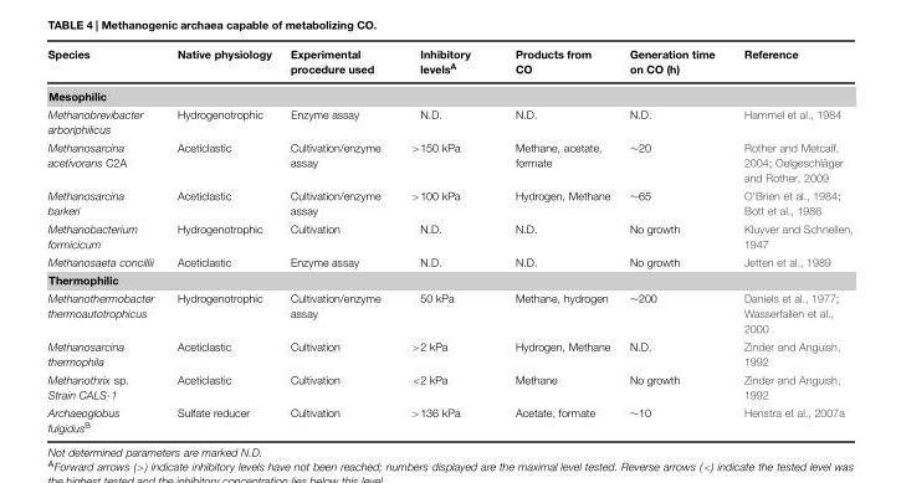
<table><thead><tr><td>Species</td><td>Native physiology</td><td>Experimental procedure used</td><td>Inhibitory levels<sup>A</sup></td><td>Products from CO</td><td>Generation time on CO (h)</td><td>Reference</td></tr></thead><tbody><tr><td colspan="7">Mesophilic</td></tr><tr><td>Methanobrevibacter arboriphilicus</td><td>Hydrogenotrophic</td><td>Enzyme assay</td><td>N.D.</td><td>N.D.</td><td>N.D.</td><td>Hammel et al., 1984</td></tr><tr><td>Methanosarcina acetivorans C2A</td><td>Aceticlastic</td><td>Cultivation/enzyme assay</td><td>&gt;150 kPa</td><td>Methane, acetate, formate</td><td>∼20</td><td>Rother and Metcalf, 2004; Oelgeschläger and Rother, 2009</td></tr><tr><td>Methanosarcina barkeri</td><td>Aceticlastic</td><td>Cultivation/enzyme assay</td><td>&gt;100 kPa</td><td>Hydrogen, Methane</td><td>∼65</td><td>O’Brien et al., 1984; Bott et al., 1986</td></tr><tr><td>Methanobacterium formicicum</td><td>Hydrogenotrophic</td><td>Cultivation</td><td>N.D.</td><td>N.D.</td><td>No growth</td><td>Kluyver and Schnellen, 1947</td></tr><tr><td>Methanosaeta concillii</td><td>Aceticlastic</td><td>Enzyme assay</td><td>N.D.</td><td>N.D.</td><td>No growth</td><td>Jetten et al., 1989</td></tr><tr><td colspan="7">Thermophilic</td></tr><tr><td>Methanothermobacter thermoautotrophicus</td><td>Hydrogenotrophic</td><td>Cultivation/enzyme assay</td><td>50 kPa</td><td>Methane, hydrogen</td><td>∼200</td><td>Daniels et al., 1977; Wasserfallen et al., 2000</td></tr><tr><td>Methanosarcina thermophila</td><td>Aceticlastic</td><td>Cultivation</td><td>&gt;2 kPa</td><td>Hydrogen, Methane</td><td>N.D.</td><td>Zinder and Anguish, 1992</td></tr><tr><td>Methanothrix sp. Strain CALS-1</td><td>Aceticlastic</td><td>Cultivation</td><td>&lt;2 kPa</td><td>Methane</td><td>No growth</td><td>Zinder and Anguish, 1992</td></tr><tr><td>Archaeoglobus fulgidus<sup>B</sup></td><td>Sulfate reducer</td><td>Cultivation</td><td>&gt;136 kPa</td><td>Acetate, formate</td><td>∼10</td><td>Henstra et al., 2007a</td></tr></tbody></table>